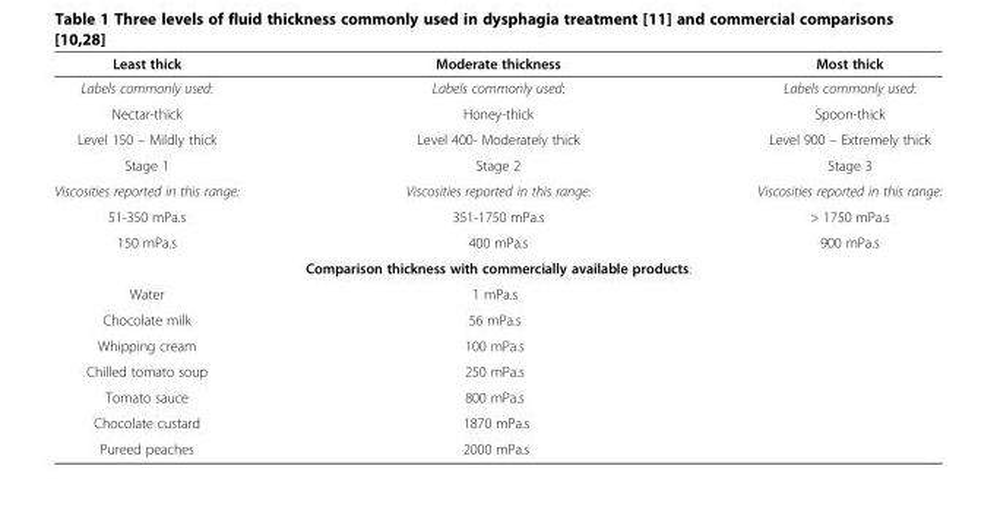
<table><thead><tr><td>Least thick</td><td>Moderate thickness</td><td>Most thick</td></tr></thead><tbody><tr><td>Labels commonly used:</td><td>Labels commonly used:</td><td>Labels commonly used:</td></tr><tr><td>Nectar-thick</td><td>Honey-thick</td><td>Spoon-thick</td></tr><tr><td>Level 150 – Mildly thick</td><td>Level 400- Moderately thick</td><td>Level 900 – Extremely thick</td></tr><tr><td>Stage 1</td><td>Stage 2</td><td>Stage 3</td></tr><tr><td>Viscosities reported in this range:</td><td>Viscosities reported in this range:</td><td>Viscosities reported in this range:</td></tr><tr><td>51-350 mPa.s</td><td>351-1750 mPa.s</td><td>&gt; 1750 mPa.s</td></tr><tr><td>150 mPa.s</td><td>400 mPa.s</td><td>900 mPa.s</td></tr><tr><td colspan="3">Comparison thickness with commercially available products:</td></tr><tr><td>Water</td><td>1 mPa.s</td><td></td></tr><tr><td>Chocolate milk</td><td>56 mPa.s</td><td></td></tr><tr><td>Whipping cream</td><td>100 mPa.s</td><td></td></tr><tr><td>Chilled tomato soup</td><td>250 mPa.s</td><td></td></tr><tr><td>Tomato sauce</td><td>800 mPa.s</td><td></td></tr><tr><td>Chocolate custard</td><td>1870 mPa.s</td><td></td></tr><tr><td>Pureed peaches</td><td>2000 mPa.s</td><td></td></tr></tbody></table>